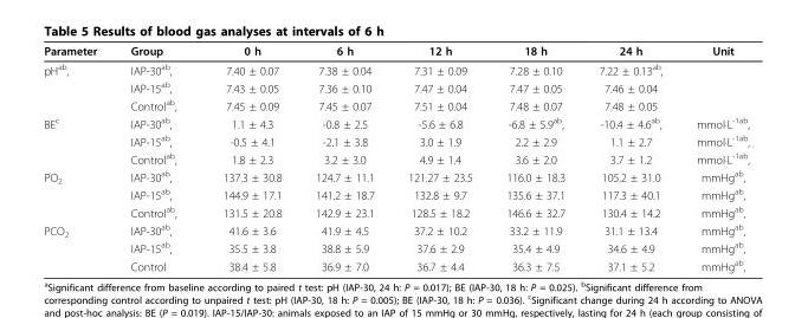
<table><thead><tr><td>Parameter</td><td>Group</td><td>0 h</td><td>6 h</td><td>12 h</td><td>18 h</td><td>24 h</td><td>Unit</td></tr></thead><tbody><tr><td rowspan="3">pH<sup>ab</sup>,</td><td>IAP-30<sup>ab</sup>,</td><td>7.40 ± 0.07</td><td>7.38 ± 0.04</td><td>7.31 ± 0.09</td><td>7.28 ± 0.10</td><td>7.22 ± 0.13<sup>ab</sup>,</td><td></td></tr><tr><td>IAP-15<sup>ab</sup>,</td><td>7.43 ± 0.05</td><td>7.36 ± 0.10</td><td>7.47 ± 0.04</td><td>7.47 ± 0.05</td><td>7.46 ± 0.04</td><td></td></tr><tr><td>Control<sup>ab</sup>,</td><td>7.45 ± 0.09</td><td>7.45 ± 0.07</td><td>7.51 ± 0.04</td><td>7.48 ± 0.07</td><td>7.48 ± 0.05</td><td></td></tr><tr><td rowspan="3">BE<sup>c</sup></td><td>IAP-30<sup>ab</sup>,</td><td>1.1 ± 4.3</td><td>-0.8 ± 2.5</td><td>-5.6 ± 6.8</td><td>-6.8 ± 5.9<sup>ab</sup>,</td><td>-10.4 ± 4.6<sup>ab</sup>,</td><td>mmol·L<sup>-1ab</sup>,</td></tr><tr><td>IAP-15<sup>ab</sup>,</td><td>-0.5 ± 4.1</td><td>-2.1 ± 3.8</td><td>3.0 ± 1.9</td><td>2.2 ± 2.9</td><td>1.1 ± 2.7</td><td>mmol·L<sup>-1ab</sup>,</td></tr><tr><td>Control<sup>ab</sup>,</td><td>1.8 ± 2.3</td><td>3.2 ± 3.0</td><td>4.9 ± 1.4</td><td>3.6 ± 2.0</td><td>3.7 ± 1.2</td><td>mmol·L<sup>-1ab</sup>,</td></tr><tr><td rowspan="3">PO<sub>2</sub></td><td>IAP-30<sup>ab</sup>,</td><td>137.3 ± 30.8</td><td>124.7 ± 11.1</td><td>121.27 ± 23.5</td><td>116.0 ± 18.3</td><td>105.2 ± 31.0</td><td>mmHg<sup>ab</sup>,</td></tr><tr><td>IAP-15<sup>ab</sup>,</td><td>144.9 ± 17.1</td><td>141.2 ± 18.7</td><td>132.8 ± 9.7</td><td>135.6 ± 37.1</td><td>117.3 ± 40.1</td><td>mmHg<sup>ab</sup>,</td></tr><tr><td>Control<sup>ab</sup>,</td><td>131.5 ± 20.8</td><td>142.9 ± 23.1</td><td>128.5 ± 18.2</td><td>146.6 ± 32.7</td><td>130.4 ± 14.2</td><td>mmHg<sup>ab</sup>,</td></tr><tr><td rowspan="3">PCO<sub>2</sub></td><td>IAP-30<sup>ab</sup>,</td><td>41.6 ± 3.6</td><td>41.9 ± 4.5</td><td>37.2 ± 10.2</td><td>33.2 ± 11.9</td><td>31.1 ± 13.4</td><td>mmHg<sup>ab</sup>,</td></tr><tr><td>IAP-15<sup>ab</sup>,</td><td>35.5 ± 3.8</td><td>38.8 ± 5.9</td><td>37.6 ± 2.9</td><td>35.4 ± 4.9</td><td>34.6 ± 4.9</td><td>mmHg<sup>ab</sup>,</td></tr><tr><td>Control</td><td>38.4 ± 5.8</td><td>36.9 ± 7.0</td><td>36.7 ± 4.4</td><td>36.3 ± 7.5</td><td>37.1 ± 5.2</td><td>mmHg<sup>ab</sup>,</td></tr></tbody></table>